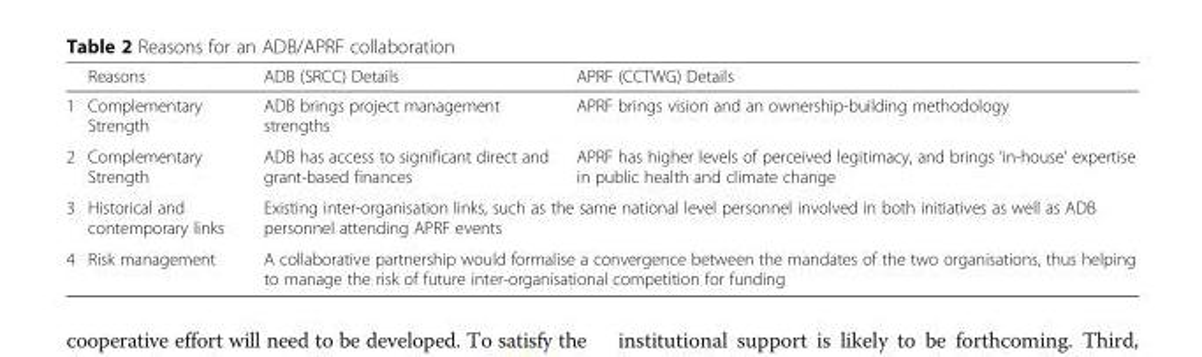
<table><thead><tr><td></td><td>Reasons</td><td>ADB (SRCC) Details</td><td>APRF (CCTWG) Details</td></tr></thead><tbody><tr><td>1</td><td>Complementary Strength</td><td>ADB brings project management strengths</td><td>APRF brings vision and an ownership-building methodology</td></tr><tr><td>2</td><td>Complementary Strength</td><td>ADB has access to significant direct and grant-based finances</td><td>APRF has higher levels of perceived legitimacy, and brings ‘in-house’ expertise in public health and climate change</td></tr><tr><td>3</td><td>Historical and contemporary links</td><td colspan="2">Existing inter-organisation links, such as the same national level personnel involved in both initiatives as well as ADB personnel attending APRF events</td></tr><tr><td>4</td><td>Risk management</td><td colspan="2">A collaborative partnership would formalise a convergence between the mandates of the two organisations, thus helping to manage the risk of future inter-organisational competition for funding</td></tr></tbody></table>